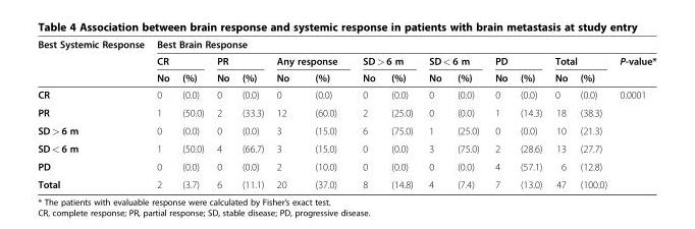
<table><thead><tr><td rowspan="3">Best Systemic Response</td><td colspan="15">Best Brain Response</td></tr><tr><td colspan="2">CR</td><td colspan="2">PR</td><td colspan="2">Any response</td><td colspan="2">SD &gt; 6 m</td><td colspan="2">SD &lt; 6 m</td><td colspan="2">PD</td><td colspan="2">Total</td><td rowspan="2">P-value*</td></tr><tr><td>No</td><td>(%)</td><td>No</td><td>(%)</td><td>No</td><td>(%)</td><td>No</td><td>(%)</td><td>No</td><td>(%)</td><td>No</td><td>(%)</td><td>No</td><td>(%)</td></tr></thead><tbody><tr><td>CR</td><td>0</td><td>(0.0)</td><td>0</td><td>(0.0)</td><td>0</td><td>(0.0)</td><td>0</td><td>(0.0)</td><td>0</td><td>(0.0)</td><td>0</td><td>(0.0)</td><td>0</td><td>(0.0)</td><td>0.0001</td></tr><tr><td>PR</td><td>1</td><td>(50.0)</td><td>2</td><td>(33.3)</td><td>12</td><td>(60.0)</td><td>2</td><td>(25.0)</td><td>0</td><td>(0.0)</td><td>1</td><td>(14.3)</td><td>18</td><td>(38.3)</td><td></td></tr><tr><td>SD &gt; 6 m</td><td>0</td><td>(0.0)</td><td>0</td><td>(0.0)</td><td>3</td><td>(15.0)</td><td>6</td><td>(75.0)</td><td>1</td><td>(25.0)</td><td>0</td><td>(0.0)</td><td>10</td><td>(21.3)</td><td></td></tr><tr><td>SD &lt; 6 m</td><td>1</td><td>(50.0)</td><td>4</td><td>(66.7)</td><td>3</td><td>(15.0)</td><td>0</td><td>(0.0)</td><td>3</td><td>(75.0)</td><td>2</td><td>(28.6)</td><td>13</td><td>(27.7)</td><td></td></tr><tr><td>PD</td><td>0</td><td>(0.0)</td><td>0</td><td>(0.0)</td><td>2</td><td>(10.0)</td><td>0</td><td>(0.0)</td><td>0</td><td>(0.0)</td><td>4</td><td>(57.1)</td><td>6</td><td>(12.8)</td><td></td></tr><tr><td>Total</td><td>2</td><td>(3.7)</td><td>6</td><td>(11.1)</td><td>20</td><td>(37.0)</td><td>8</td><td>(14.8)</td><td>4</td><td>(7.4)</td><td>7</td><td>(13.0)</td><td>47</td><td>(100.0)</td><td></td></tr></tbody></table>